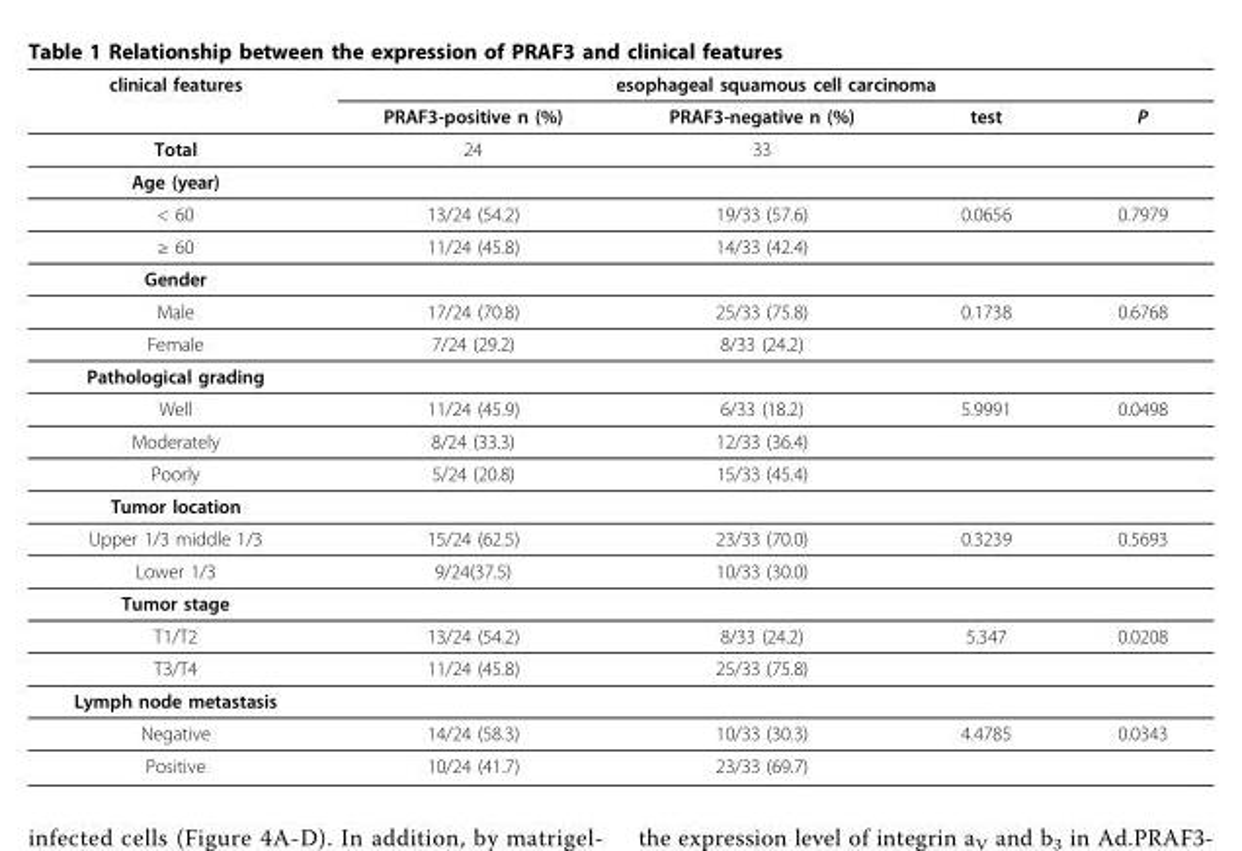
<table><thead><tr><td rowspan="2">clinical features</td><td colspan="4">esophageal squamous cell carcinoma</td></tr><tr><td>PRAF3-positive n (%)</td><td>PRAF3-negative n (%)</td><td>test</td><td>P</td></tr></thead><tbody><tr><td>Total</td><td>24</td><td>33</td><td></td><td></td></tr><tr><td colspan="5">Age (year)</td></tr><tr><td>&lt; 60</td><td>13/24 (54.2)</td><td>19/33 (57.6)</td><td>0.0656</td><td>0.7979</td></tr><tr><td>≥ 60</td><td>11/24 (45.8)</td><td>14/33 (42.4)</td><td></td><td></td></tr><tr><td colspan="5">Gender</td></tr><tr><td>Male</td><td>17/24 (70.8)</td><td>25/33 (75.8)</td><td>0.1738</td><td>0.6768</td></tr><tr><td>Female</td><td>7/24 (29.2)</td><td>8/33 (24.2)</td><td></td><td></td></tr><tr><td colspan="5">Pathological grading</td></tr><tr><td>Well</td><td>11/24 (45.9)</td><td>6/33 (18.2)</td><td>5.9991</td><td>0.0498</td></tr><tr><td>Moderately</td><td>8/24 (33.3)</td><td>12/33 (36.4)</td><td></td><td></td></tr><tr><td>Poorly</td><td>5/24 (20.8)</td><td>15/33 (45.4)</td><td></td><td></td></tr><tr><td colspan="5">Tumor location</td></tr><tr><td>Upper 1/3 middle 1/3</td><td>15/24 (62.5)</td><td>23/33 (70.0)</td><td>0.3239</td><td>0.5693</td></tr><tr><td>Lower 1/3</td><td>9/24(37.5)</td><td>10/33 (30.0)</td><td></td><td></td></tr><tr><td colspan="5">Tumor stage</td></tr><tr><td>T1/T2</td><td>13/24 (54.2)</td><td>8/33 (24.2)</td><td>5.347</td><td>0.0208</td></tr><tr><td>T3/T4</td><td>11/24 (45.8)</td><td>25/33 (75.8)</td><td></td><td></td></tr><tr><td colspan="5">Lymph node metastasis</td></tr><tr><td>Negative</td><td>14/24 (58.3)</td><td>10/33 (30.3)</td><td>4.4785</td><td>0.0343</td></tr><tr><td>Positive</td><td>10/24 (41.7)</td><td>23/33 (69.7)</td><td></td><td></td></tr></tbody></table>